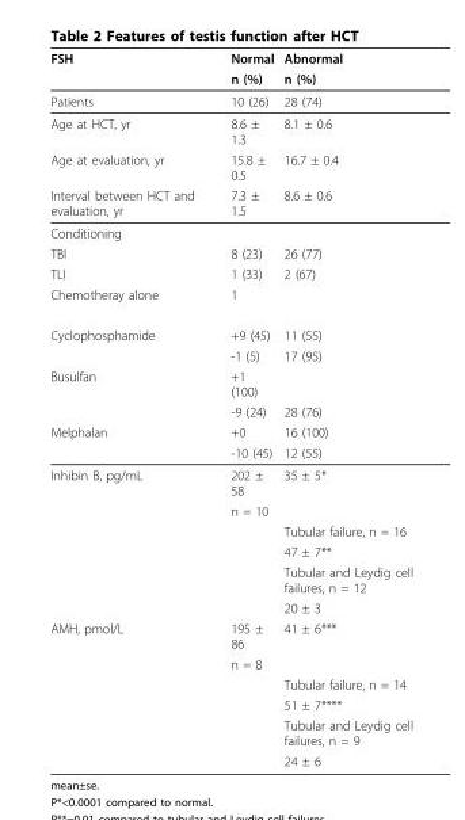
<table><thead><tr><td rowspan="2">FSH</td><td rowspan="2">Normal n (%)</td><td rowspan="2">Abnormal n (%)</td></tr><tr></tr></thead><tbody><tr><td>Patients</td><td>10 (26)</td><td>28 (74)</td></tr><tr><td>Age at HCT, yr</td><td>8.6 ± 1.3</td><td>8.1 ± 0.6</td></tr><tr><td>Age at evaluation, yr</td><td>15.8 ± 0.5</td><td>16.7 ± 0.4</td></tr><tr><td>Interval between HCT and evaluation, yr</td><td>7.3 ± 1.5</td><td>8.6 ± 0.6</td></tr><tr><td colspan="3">Conditioning</td></tr><tr><td>TBI</td><td>8 (23)</td><td>26 (77)</td></tr><tr><td>TLI</td><td>1 (33)</td><td>2 (67)</td></tr><tr><td>Chemotheray alone</td><td>1</td><td></td></tr><tr><td rowspan="2">Cyclophosphamide</td><td>+9 (45)</td><td>11 (55)</td></tr><tr><td>-1 (5)</td><td>17 (95)</td></tr><tr><td rowspan="2">Busulfan</td><td>+1 (100)</td><td></td></tr><tr><td>-9 (24)</td><td>28 (76)</td></tr><tr><td rowspan="2">Melphalan</td><td>+0</td><td>16 (100)</td></tr><tr><td>-10 (45)</td><td>12 (55)</td></tr><tr><td rowspan="6">Inhibin B, pg/mL</td><td>202 ± 58</td><td>35 ± 5*</td></tr><tr><td>n = 10</td><td></td></tr><tr><td></td><td>Tubular failure, n = 16</td></tr><tr><td></td><td>47 ± 7**</td></tr><tr><td></td><td>Tubular and Leydig cell failures, n = 12</td></tr><tr><td></td><td>20 ± 3</td></tr><tr><td rowspan="6">AMH, pmol/L</td><td>195 ± 86</td><td>41 ± 6***</td></tr><tr><td>n = 8</td><td></td></tr><tr><td></td><td>Tubular failure, n = 14</td></tr><tr><td></td><td>51 ± 7****</td></tr><tr><td></td><td>Tubular and Leydig cell failures, n = 9</td></tr><tr><td></td><td>24 ± 6</td></tr></tbody></table>